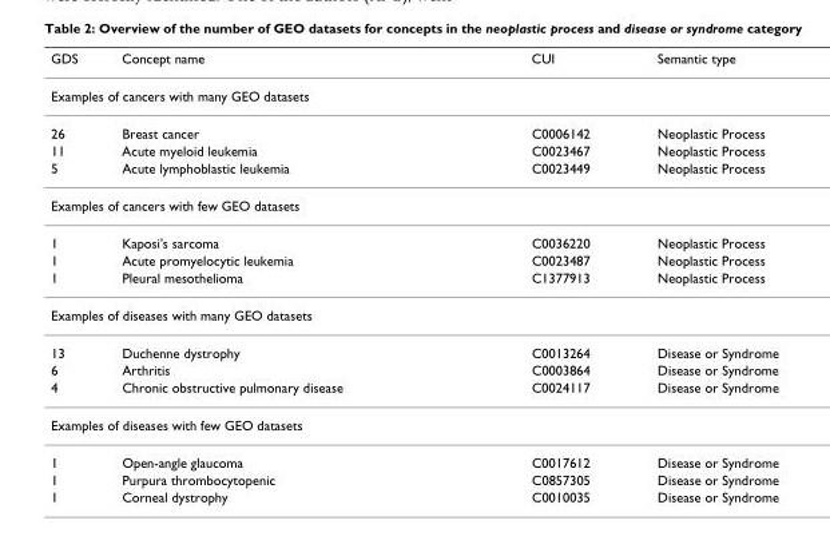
<table><thead><tr><td>GDS</td><td>Concept name</td><td>CUI</td><td>Semantic type</td></tr></thead><tbody><tr><td colspan="4">Examples of cancers with many GEO datasets</td></tr><tr><td>26</td><td>Breast cancer</td><td>C0006142</td><td>Neoplastic Process</td></tr><tr><td>11</td><td>Acute myeloid leukemia</td><td>C0023467</td><td>Neoplastic Process</td></tr><tr><td>5</td><td>Acute lymphoblastic leukemia</td><td>C0023449</td><td>Neoplastic Process</td></tr><tr><td colspan="4">Examples of cancers with few GEO datasets</td></tr><tr><td>1</td><td>Kaposi&#x27;s sarcoma</td><td>C0036220</td><td>Neoplastic Process</td></tr><tr><td>1</td><td>Acute promyelocytic leukemia</td><td>C0023487</td><td>Neoplastic Process</td></tr><tr><td>1</td><td>Pleural mesothelioma</td><td>C1377913</td><td>Neoplastic Process</td></tr><tr><td colspan="4">Examples of diseases with many GEO datasets</td></tr><tr><td>13</td><td>Duchenne dystrophy</td><td>C0013264</td><td>Disease or Syndrome</td></tr><tr><td>6</td><td>Arthritis</td><td>C0003864</td><td>Disease or Syndrome</td></tr><tr><td>4</td><td>Chronic obstructive pulmonary disease</td><td>C0024117</td><td>Disease or Syndrome</td></tr><tr><td colspan="4">Examples of diseases with few GEO datasets</td></tr><tr><td>1</td><td>Open-angle glaucoma</td><td>C0017612</td><td>Disease or Syndrome</td></tr><tr><td>1</td><td>Purpura thrombocytopenic</td><td>C0857305</td><td>Disease or Syndrome</td></tr><tr><td>1</td><td>Corneal dystrophy</td><td>C0010035</td><td>Disease or Syndrome</td></tr></tbody></table>